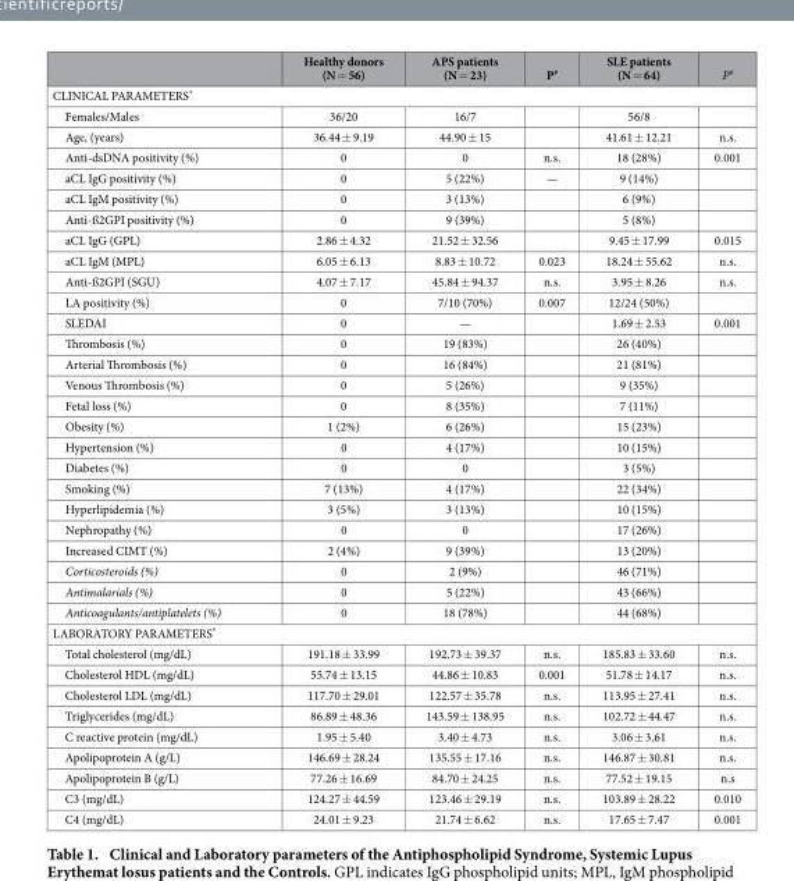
<table><thead><tr><td></td><td>Healthy donors (N = 56)</td><td>APS patients (N = 23)</td><td>P<sup>#</sup></td><td>SLE patients (N = 64)</td><td>P<sup>#</sup></td></tr></thead><tbody><tr><td colspan="6">CLINICAL PARAMETERS*</td></tr><tr><td>Females/Males</td><td>36/20</td><td>16/7</td><td></td><td>56/8</td><td></td></tr><tr><td>Age, (years)</td><td>36.44 ± 9.19</td><td>44.90 ± 15</td><td></td><td>41.61 ± 12.21</td><td>n.s.</td></tr><tr><td>Anti-dsDNA positivity (%)</td><td>0</td><td>0</td><td>n.s.</td><td>18 (28%)</td><td>0.001</td></tr><tr><td>aCL IgG positivity (%)</td><td>0</td><td>5 (22%)</td><td>—</td><td>9 (14%)</td><td></td></tr><tr><td>aCL IgM positivity (%)</td><td>0</td><td>3 (13%)</td><td></td><td>6 (9%)</td><td></td></tr><tr><td>Anti-ß2GPI positivity (%)</td><td>0</td><td>9 (39%)</td><td></td><td>5 (8%)</td><td></td></tr><tr><td>aCL IgG (GPL)</td><td>2.86 ± 4.32</td><td>21.52 ± 32.56</td><td></td><td>9.45 ± 17.99</td><td>0.015</td></tr><tr><td>aCL IgM (MPL)</td><td>6.05 ± 6.13</td><td>8.83 ± 10.72</td><td>0.023</td><td>18.24 ± 55.62</td><td>n.s.</td></tr><tr><td>Anti-ß2GPI (SGU)</td><td>4.07 ± 7.17</td><td>45.84 ± 94.37</td><td>n.s.</td><td>3.95 ± 8.26</td><td>n.s.</td></tr><tr><td>LA positivity (%)</td><td>0</td><td>7/10 (70%)</td><td>0.007</td><td>12/24 (50%)</td><td></td></tr><tr><td>SLEDAI</td><td>0</td><td>—</td><td></td><td>1.69 ± 2.53</td><td>0.001</td></tr><tr><td>Thrombosis (%)</td><td>0</td><td>19 (83%)</td><td></td><td>26 (40%)</td><td></td></tr><tr><td>Arterial Thrombosis (%)</td><td>0</td><td>16 (84%)</td><td></td><td>21 (81%)</td><td></td></tr><tr><td>Venous Thrombosis (%)</td><td>0</td><td>5 (26%)</td><td></td><td>9 (35%)</td><td></td></tr><tr><td>Fetal loss (%)</td><td>0</td><td>8 (35%)</td><td></td><td>7 (11%)</td><td></td></tr><tr><td>Obesity (%)</td><td>1 (2%)</td><td>6 (26%)</td><td></td><td>15 (23%)</td><td></td></tr><tr><td>Hypertension (%)</td><td>0</td><td>4 (17%)</td><td></td><td>10 (15%)</td><td></td></tr><tr><td>Diabetes (%)</td><td>0</td><td>0</td><td></td><td>3 (5%)</td><td></td></tr><tr><td>Smoking (%)</td><td>7 (13%)</td><td>4 (17%)</td><td></td><td>22 (34%)</td><td></td></tr><tr><td>Hyperlipidemia (%)</td><td>3 (5%)</td><td>3 (13%)</td><td></td><td>10 (15%)</td><td></td></tr><tr><td>Nephropathy (%)</td><td>0</td><td>0</td><td></td><td>17 (26%)</td><td></td></tr><tr><td>Increased CIMT (%)</td><td>2 (4%)</td><td>9 (39%)</td><td></td><td>13 (20%)</td><td></td></tr><tr><td>Corticosteroids (%)</td><td>0</td><td>2 (9%)</td><td></td><td>46 (71%)</td><td></td></tr><tr><td>Antimalarials (%)</td><td>0</td><td>5 (22%)</td><td></td><td>43 (66%)</td><td></td></tr><tr><td>Anticoagulants/antiplatelets (%)</td><td>0</td><td>18 (78%)</td><td></td><td>44 (68%)</td><td></td></tr><tr><td colspan="6">LABORATORY PARAMETERS*</td></tr><tr><td>Total cholesterol (mg/dL)</td><td>191.18 ± 33.99</td><td>192.73 ± 39.37</td><td>n.s.</td><td>185.83 ± 33.60</td><td>n.s.</td></tr><tr><td>Cholesterol HDL (mg/dL)</td><td>55.74 ± 13.15</td><td>44.86 ± 10.83</td><td>0.001</td><td>51.78 ± 14.17</td><td>n.s.</td></tr><tr><td>Cholesterol LDL (mg/dL)</td><td>117.70 ± 29.01</td><td>122.57 ± 35.78</td><td>n.s.</td><td>113.95 ± 27.41</td><td>n.s.</td></tr><tr><td>Triglycerides (mg/dL)</td><td>86.89 ± 48.36</td><td>143.59 ± 138.95</td><td>n.s.</td><td>102.72 ± 44.47</td><td>n.s.</td></tr><tr><td>C reactive protein (mg/dL)</td><td>1.95 ± 5.40</td><td>3.40 ± 4.73</td><td>n.s.</td><td>3.06 ± 3.61</td><td>n.s.</td></tr><tr><td>Apolipoprotein A (g/L)</td><td>146.69 ± 28.24</td><td>135.55 ± 17.16</td><td>n.s.</td><td>146.87 ± 30.81</td><td>n.s.</td></tr><tr><td>Apolipoprotein B (g/L)</td><td>77.26 ± 16.69</td><td>84.70 ± 24.25</td><td>n.s.</td><td>77.52 ± 19.15</td><td>n.s</td></tr><tr><td>C3 (mg/dL)</td><td>124.27 ± 44.59</td><td>123.46 ± 29.19</td><td>n.s.</td><td>103.89 ± 28.22</td><td>0.010</td></tr><tr><td>C4 (mg/dL)</td><td>24.01 ± 9.23</td><td>21.74 ± 6.62</td><td>n.s.</td><td>17.65 ± 7.47</td><td>0.001</td></tr></tbody></table>